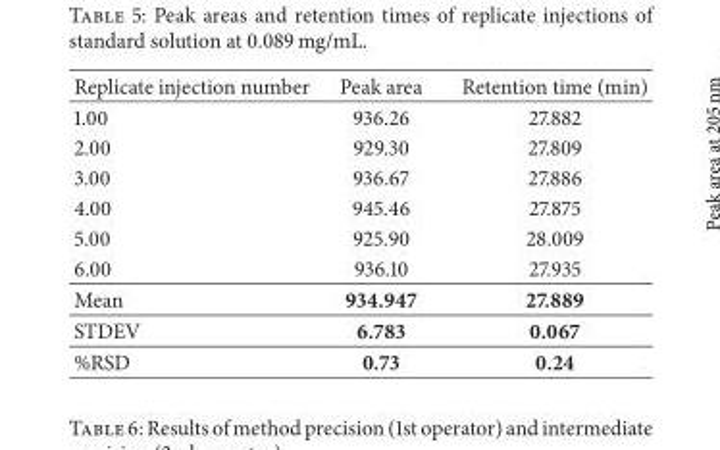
<table><thead><tr><td>Replicate injection number</td><td>Peak area</td><td>Retention time (min)</td></tr></thead><tbody><tr><td>1.00</td><td>936.26</td><td>27.882</td></tr><tr><td>2.00</td><td>929.30</td><td>27.809</td></tr><tr><td>3.00</td><td>936.67</td><td>27.886</td></tr><tr><td>4.00</td><td>945.46</td><td>27.875</td></tr><tr><td>5.00</td><td>925.90</td><td>28.009</td></tr><tr><td>6.00</td><td>936.10</td><td>27.935</td></tr><tr><td>Mean</td><td>934.947</td><td>27.889</td></tr><tr><td>STDEV</td><td>6.783</td><td>0.067</td></tr><tr><td>%RSD</td><td>0.73</td><td>0.24</td></tr></tbody></table>